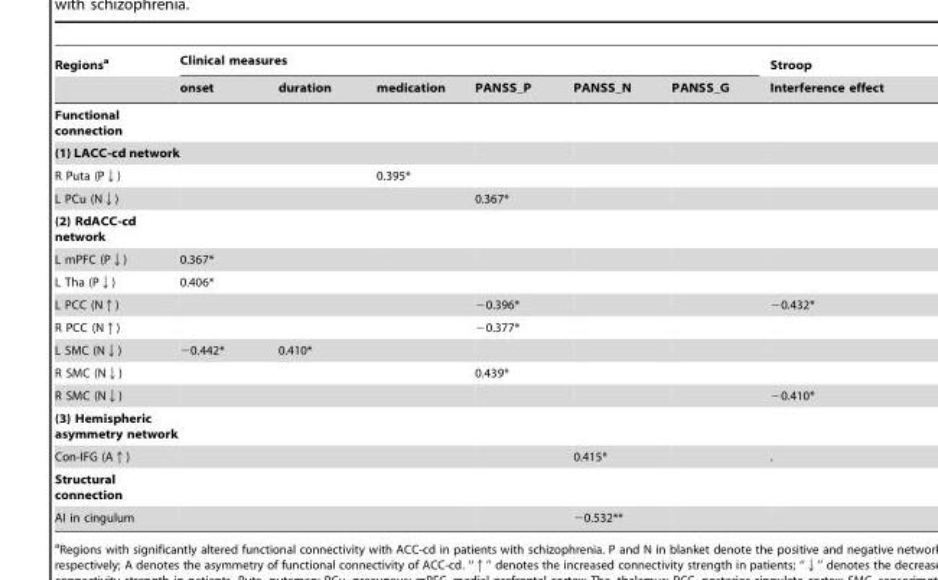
<table><thead><tr><td rowspan="2">Regions<sup>a</sup></td><td colspan="6">Clinical measures</td><td rowspan="2">Stroop Interference effect</td></tr><tr><td>onset</td><td>duration</td><td>medication</td><td>PANSS_P</td><td>PANSS_N</td><td>PANSS_G</td></tr></thead><tbody><tr><td colspan="8">Functional connection</td></tr><tr><td colspan="8">(1) LACC-cd network</td></tr><tr><td>R Puta (P↓)</td><td></td><td></td><td>0.395*</td><td></td><td></td><td></td><td></td></tr><tr><td>L PCu (N↓)</td><td></td><td></td><td></td><td>0.367*</td><td></td><td></td><td></td></tr><tr><td colspan="8">(2) RdACC-cd network</td></tr><tr><td>L mPFC (P↓)</td><td>0.367*</td><td></td><td></td><td></td><td></td><td></td><td></td></tr><tr><td>L Tha (P↓)</td><td>0.406*</td><td></td><td></td><td></td><td></td><td></td><td></td></tr><tr><td>L PCC (N↑)</td><td></td><td></td><td></td><td>−0.396*</td><td></td><td></td><td>−0.432*</td></tr><tr><td>R PCC (N↑)</td><td></td><td></td><td></td><td>−0.377*</td><td></td><td></td><td></td></tr><tr><td>L SMC (N↓)</td><td>−0.442*</td><td>0.410*</td><td></td><td></td><td></td><td></td><td></td></tr><tr><td>R SMC (N↓)</td><td></td><td></td><td></td><td>0.439*</td><td></td><td></td><td></td></tr><tr><td>R SMC (N↓)</td><td></td><td></td><td></td><td></td><td></td><td></td><td>−0.410*</td></tr><tr><td colspan="8">(3) Hemispheric asymmetry network</td></tr><tr><td>Con-IFG (A↑)</td><td></td><td></td><td></td><td></td><td>0.415*</td><td></td><td>.</td></tr><tr><td colspan="8">Structural connection</td></tr><tr><td>AI in cingulum</td><td></td><td></td><td></td><td></td><td>−0.532**</td><td></td><td></td></tr></tbody></table>